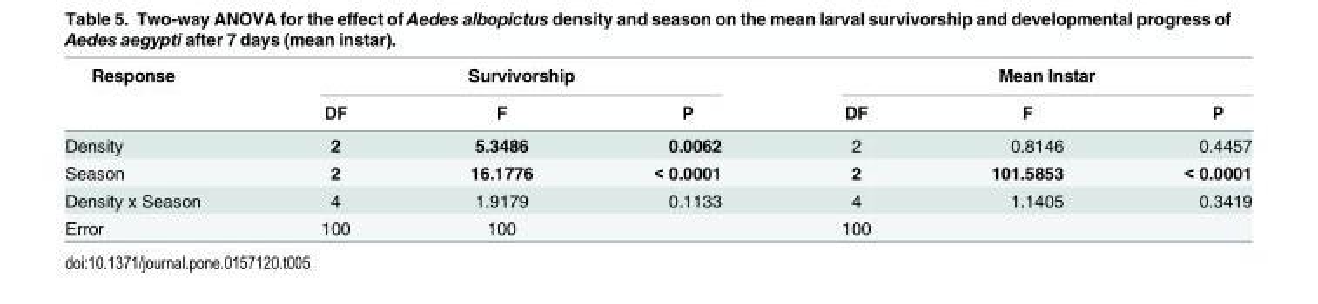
<table><thead><tr><td rowspan="2">Response</td><td colspan="3">Survivorship</td><td colspan="3">Mean Instar</td></tr><tr><td>DF</td><td>F</td><td>P</td><td>DF</td><td>F</td><td>P</td></tr></thead><tbody><tr><td>Density</td><td>2</td><td>5.3486</td><td>0.0062</td><td>2</td><td>0.8146</td><td>0.4457</td></tr><tr><td>Season</td><td>2</td><td>16.1776</td><td>&lt; 0.0001</td><td>2</td><td>101.5853</td><td>&lt; 0.0001</td></tr><tr><td>Density x Season</td><td>4</td><td>1.9179</td><td>0.1133</td><td>4</td><td>1.1405</td><td>0.3419</td></tr><tr><td>Error</td><td>100</td><td>100</td><td></td><td>100</td><td></td><td></td></tr></tbody></table>